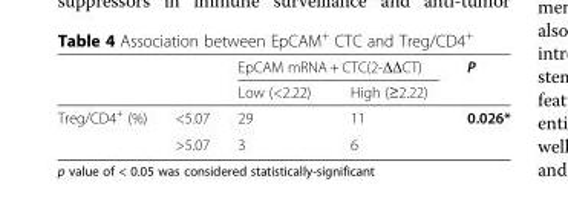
<table><thead><tr><td rowspan="2"></td><td rowspan="2"></td><td colspan="2">EpCAM mRNA + CTC(2-ΔΔCT)</td><td rowspan="2">P</td></tr><tr><td>Low (&lt;2.22)</td><td>High (≥2.22)</td></tr></thead><tbody><tr><td rowspan="2">Treg/CD4<sup>+</sup> (%)</td><td>&lt;5.07</td><td>29</td><td>11</td><td rowspan="2">0.026*</td></tr><tr><td>&gt;5.07</td><td>3</td><td>6</td></tr></tbody></table>